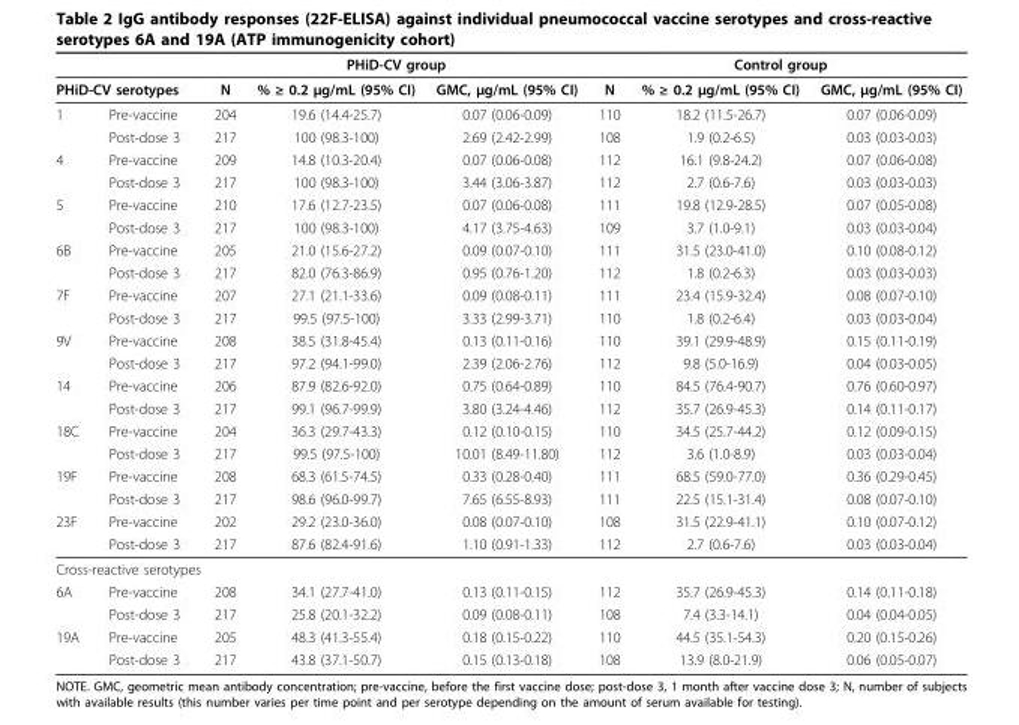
<table><thead><tr><td></td><td></td><td colspan="3">PHiD-CV group</td><td colspan="3">Control group</td></tr><tr><td colspan="2">PHiD-CV serotypes</td><td>N</td><td>% ≥ 0.2 μg/mL (95% CI)</td><td>GMC, μg/mL (95% CI)</td><td>N</td><td>% ≥ 0.2 μg/mL (95% CI)</td><td>GMC, μg/mL (95% CI)</td></tr></thead><tbody><tr><td rowspan="2">1</td><td>Pre-vaccine</td><td>204</td><td>19.6 (14.4-25.7)</td><td>0.07 (0.06-0.09)</td><td>110</td><td>18.2 (11.5-26.7)</td><td>0.07 (0.06-0.09)</td></tr><tr><td>Post-dose 3</td><td>217</td><td>100 (98.3-100)</td><td>2.69 (2.42-2.99)</td><td>108</td><td>1.9 (0.2-6.5)</td><td>0.03 (0.03-0.03)</td></tr><tr><td rowspan="2">4</td><td>Pre-vaccine</td><td>209</td><td>14.8 (10.3-20.4)</td><td>0.07 (0.06-0.08)</td><td>112</td><td>16.1 (9.8-24.2)</td><td>0.07 (0.06-0.08)</td></tr><tr><td>Post-dose 3</td><td>217</td><td>100 (98.3-100)</td><td>3.44 (3.06-3.87)</td><td>112</td><td>2.7 (0.6-7.6)</td><td>0.03 (0.03-0.03)</td></tr><tr><td rowspan="2">5</td><td>Pre-vaccine</td><td>210</td><td>17.6 (12.7-23.5)</td><td>0.07 (0.06-0.08)</td><td>111</td><td>19.8 (12.9-28.5)</td><td>0.07 (0.05-0.08)</td></tr><tr><td>Post-dose 3</td><td>217</td><td>100 (98.3-100)</td><td>4.17 (3.75-4.63)</td><td>109</td><td>3.7 (1.0-9.1)</td><td>0.03 (0.03-0.04)</td></tr><tr><td rowspan="2">6B</td><td>Pre-vaccine</td><td>205</td><td>21.0 (15.6-27.2)</td><td>0.09 (0.07-0.10)</td><td>111</td><td>31.5 (23.0-41.0)</td><td>0.10 (0.08-0.12)</td></tr><tr><td>Post-dose 3</td><td>217</td><td>82.0 (76.3-86.9)</td><td>0.95 (0.76-1.20)</td><td>112</td><td>1.8 (0.2-6.3)</td><td>0.03 (0.03-0.03)</td></tr><tr><td rowspan="2">7F</td><td>Pre-vaccine</td><td>207</td><td>27.1 (21.1-33.6)</td><td>0.09 (0.08-0.11)</td><td>111</td><td>23.4 (15.9-32.4)</td><td>0.08 (0.07-0.10)</td></tr><tr><td>Post-dose 3</td><td>217</td><td>99.5 (97.5-100)</td><td>3.33 (2.99-3.71)</td><td>110</td><td>1.8 (0.2-6.4)</td><td>0.03 (0.03-0.04)</td></tr><tr><td rowspan="2">9V</td><td>Pre-vaccine</td><td>208</td><td>38.5 (31.8-45.4)</td><td>0.13 (0.11-0.16)</td><td>110</td><td>39.1 (29.9-48.9)</td><td>0.15 (0.11-0.19)</td></tr><tr><td>Post-dose 3</td><td>217</td><td>97.2 (94.1-99.0)</td><td>2.39 (2.06-2.76)</td><td>112</td><td>9.8 (5.0-16.9)</td><td>0.04 (0.03-0.05)</td></tr><tr><td rowspan="2">14</td><td>Pre-vaccine</td><td>206</td><td>87.9 (82.6-92.0)</td><td>0.75 (0.64-0.89)</td><td>110</td><td>84.5 (76.4-90.7)</td><td>0.76 (0.60-0.97)</td></tr><tr><td>Post-dose 3</td><td>217</td><td>99.1 (96.7-99.9)</td><td>3.80 (3.24-4.46)</td><td>112</td><td>35.7 (26.9-45.3)</td><td>0.14 (0.11-0.17)</td></tr><tr><td rowspan="2">18C</td><td>Pre-vaccine</td><td>204</td><td>36.3 (29.7-43.3)</td><td>0.12 (0.10-0.15)</td><td>110</td><td>34.5 (25.7-44.2)</td><td>0.12 (0.09-0.15)</td></tr><tr><td>Post-dose 3</td><td>217</td><td>99.5 (97.5-100)</td><td>10.01 (8.49-11.80)</td><td>112</td><td>3.6 (1.0-8.9)</td><td>0.03 (0.03-0.04)</td></tr><tr><td rowspan="2">19F</td><td>Pre-vaccine</td><td>208</td><td>68.3 (61.5-74.5)</td><td>0.33 (0.28-0.40)</td><td>111</td><td>68.5 (59.0-77.0)</td><td>0.36 (0.29-0.45)</td></tr><tr><td>Post-dose 3</td><td>217</td><td>98.6 (96.0-99.7)</td><td>7.65 (6.55-8.93)</td><td>111</td><td>22.5 (15.1-31.4)</td><td>0.08 (0.07-0.10)</td></tr><tr><td rowspan="2">23F</td><td>Pre-vaccine</td><td>202</td><td>29.2 (23.0-36.0)</td><td>0.08 (0.07-0.10)</td><td>108</td><td>31.5 (22.9-41.1)</td><td>0.10 (0.07-0.12)</td></tr><tr><td>Post-dose 3</td><td>217</td><td>87.6 (82.4-91.6)</td><td>1.10 (0.91-1.33)</td><td>112</td><td>2.7 (0.6-7.6)</td><td>0.03 (0.03-0.04)</td></tr><tr><td colspan="8">Cross-reactive serotypes</td></tr><tr><td rowspan="2">6A</td><td>Pre-vaccine</td><td>208</td><td>34.1 (27.7-41.0)</td><td>0.13 (0.11-0.15)</td><td>112</td><td>35.7 (26.9-45.3)</td><td>0.14 (0.11-0.18)</td></tr><tr><td>Post-dose 3</td><td>217</td><td>25.8 (20.1-32.2)</td><td>0.09 (0.08-0.11)</td><td>108</td><td>7.4 (3.3-14.1)</td><td>0.04 (0.04-0.05)</td></tr><tr><td rowspan="2">19A</td><td>Pre-vaccine</td><td>205</td><td>48.3 (41.3-55.4)</td><td>0.18 (0.15-0.22)</td><td>110</td><td>44.5 (35.1-54.3)</td><td>0.20 (0.15-0.26)</td></tr><tr><td>Post-dose 3</td><td>217</td><td>43.8 (37.1-50.7)</td><td>0.15 (0.13-0.18)</td><td>108</td><td>13.9 (8.0-21.9)</td><td>0.06 (0.05-0.07)</td></tr></tbody></table>